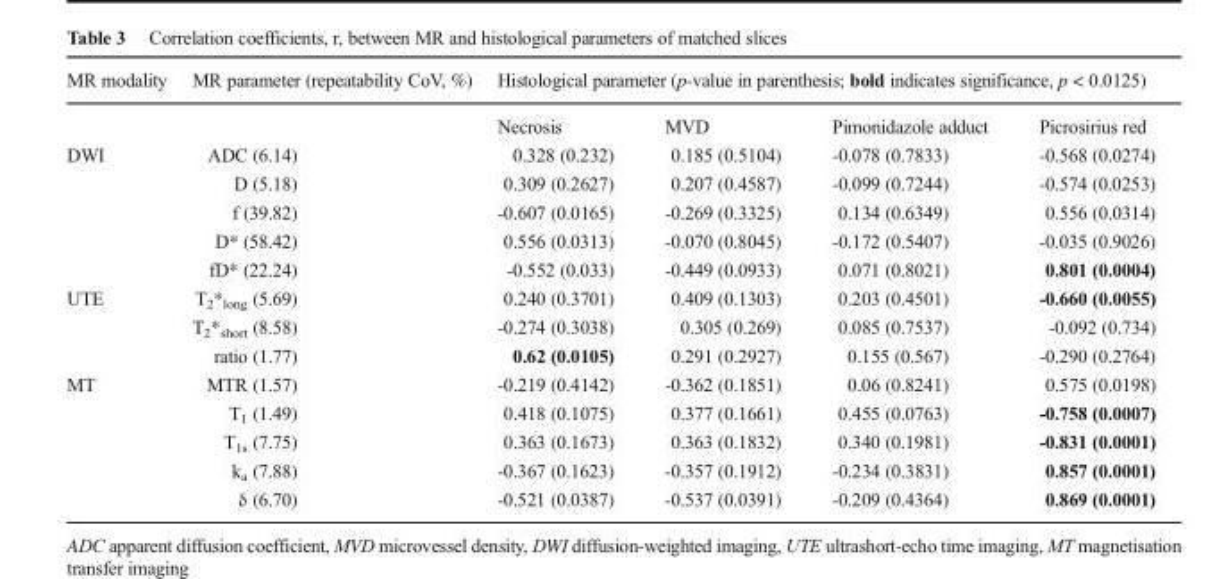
<table><thead><tr><td rowspan="2">MR modality</td><td rowspan="2">MR parameter (repeatability CoV, %)</td><td colspan="4">Histological parameter (p-value in parenthesis; bold indicates significance, p &lt; 0.0125)</td></tr><tr><td>Necrosis</td><td>MVD</td><td>Pimonidazole adduct</td><td>Picrosirius red</td></tr></thead><tbody><tr><td rowspan="5">DWI</td><td>ADC (6.14)</td><td>0.328 (0.232)</td><td>0.185 (0.5104)</td><td>-0.078 (0.7833)</td><td>-0.568 (0.0274)</td></tr><tr><td>D (5.18)</td><td>0.309 (0.2627)</td><td>0.207 (0.4587)</td><td>-0.099 (0.7244)</td><td>-0.574 (0.0253)</td></tr><tr><td>f (39.82)</td><td>-0.607 (0.0165)</td><td>-0.269 (0.3325)</td><td>0.134 (0.6349)</td><td>0.556 (0.0314)</td></tr><tr><td>D* (58.42)</td><td>0.556 (0.0313)</td><td>-0.070 (0.8045)</td><td>-0.172 (0.5407)</td><td>-0.035 (0.9026)</td></tr><tr><td>fD* (22.24)</td><td>-0.552 (0.033)</td><td>-0.449 (0.0933)</td><td>0.071 (0.8021)</td><td>0.801 (0.0004)</td></tr><tr><td rowspan="3">UTE</td><td>T<sub>2</sub>*<sub>long</sub> (5.69)</td><td>0.240 (0.3701)</td><td>0.409 (0.1303)</td><td>0.203 (0.4501)</td><td>-0.660 (0.0055)</td></tr><tr><td>T<sub>2</sub>*<sub>short</sub> (8.58)</td><td>-0.274 (0.3038)</td><td>0.305 (0.269)</td><td>0.085 (0.7537)</td><td>-0.092 (0.734)</td></tr><tr><td>ratio (1.77)</td><td>0.62 (0.0105)</td><td>0.291 (0.2927)</td><td>0.155 (0.567)</td><td>-0.290 (0.2764)</td></tr><tr><td rowspan="5">MT</td><td>MTR (1.57)</td><td>-0.219 (0.4142)</td><td>-0.362 (0.1851)</td><td>0.06 (0.8241)</td><td>0.575 (0.0198)</td></tr><tr><td>T<sub>1</sub> (1.49)</td><td>0.418 (0.1075)</td><td>0.377 (0.1661)</td><td>0.455 (0.0763)</td><td>-0.758 (0.0007)</td></tr><tr><td>T<sub>1s</sub> (7.75)</td><td>0.363 (0.1673)</td><td>0.363 (0.1832)</td><td>0.340 (0.1981)</td><td>-0.831 (0.0001)</td></tr><tr><td>k<sub>a</sub> (7.88)</td><td>-0.367 (0.1623)</td><td>-0.357 (0.1912)</td><td>-0.234 (0.3831)</td><td>0.857 (0.0001)</td></tr><tr><td>δ (6.70)</td><td>-0.521 (0.0387)</td><td>-0.537 (0.0391)</td><td>-0.209 (0.4364)</td><td>0.869 (0.0001)</td></tr></tbody></table>